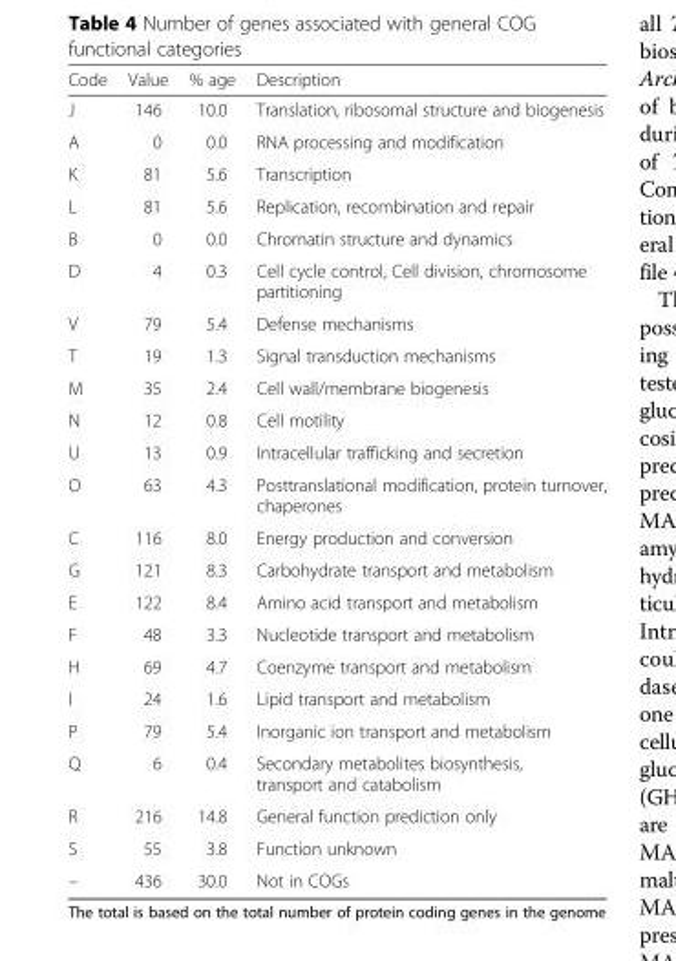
<table><thead><tr><td>Code</td><td>Value</td><td>% age</td><td>Description</td></tr></thead><tbody><tr><td>J</td><td>146</td><td>10.0</td><td>Translation, ribosomal structure and biogenesis</td></tr><tr><td>A</td><td>0</td><td>0.0</td><td>RNA processing and modification</td></tr><tr><td>K</td><td>81</td><td>5.6</td><td>Transcription</td></tr><tr><td>L</td><td>81</td><td>5.6</td><td>Replication, recombination and repair</td></tr><tr><td>B</td><td>0</td><td>0.0</td><td>Chromatin structure and dynamics</td></tr><tr><td>D</td><td>4</td><td>0.3</td><td>Cell cycle control, Cell division, chromosome partitioning</td></tr><tr><td>V</td><td>79</td><td>5.4</td><td>Defense mechanisms</td></tr><tr><td>T</td><td>19</td><td>1.3</td><td>Signal transduction mechanisms</td></tr><tr><td>M</td><td>35</td><td>2.4</td><td>Cell wall/membrane biogenesis</td></tr><tr><td>N</td><td>12</td><td>0.8</td><td>Cell motility</td></tr><tr><td>U</td><td>13</td><td>0.9</td><td>Intracellular trafficking and secretion</td></tr><tr><td>O</td><td>63</td><td>4.3</td><td>Posttranslational modification, protein turnover, chaperones</td></tr><tr><td>C</td><td>116</td><td>8.0</td><td>Energy production and conversion</td></tr><tr><td>G</td><td>121</td><td>8.3</td><td>Carbohydrate transport and metabolism</td></tr><tr><td>E</td><td>122</td><td>8.4</td><td>Amino acid transport and metabolism</td></tr><tr><td>F</td><td>48</td><td>3.3</td><td>Nucleotide transport and metabolism</td></tr><tr><td>H</td><td>69</td><td>4.7</td><td>Coenzyme transport and metabolism</td></tr><tr><td>I</td><td>24</td><td>1.6</td><td>Lipid transport and metabolism</td></tr><tr><td>P</td><td>79</td><td>5.4</td><td>Inorganic ion transport and metabolism</td></tr><tr><td>Q</td><td>6</td><td>0.4</td><td>Secondary metabolites biosynthesis, transport and catabolism</td></tr><tr><td>R</td><td>216</td><td>14.8</td><td>General function prediction only</td></tr><tr><td>S</td><td>55</td><td>3.8</td><td>Function unknown</td></tr><tr><td>–</td><td>436</td><td>30.0</td><td>Not in COGs</td></tr></tbody></table>